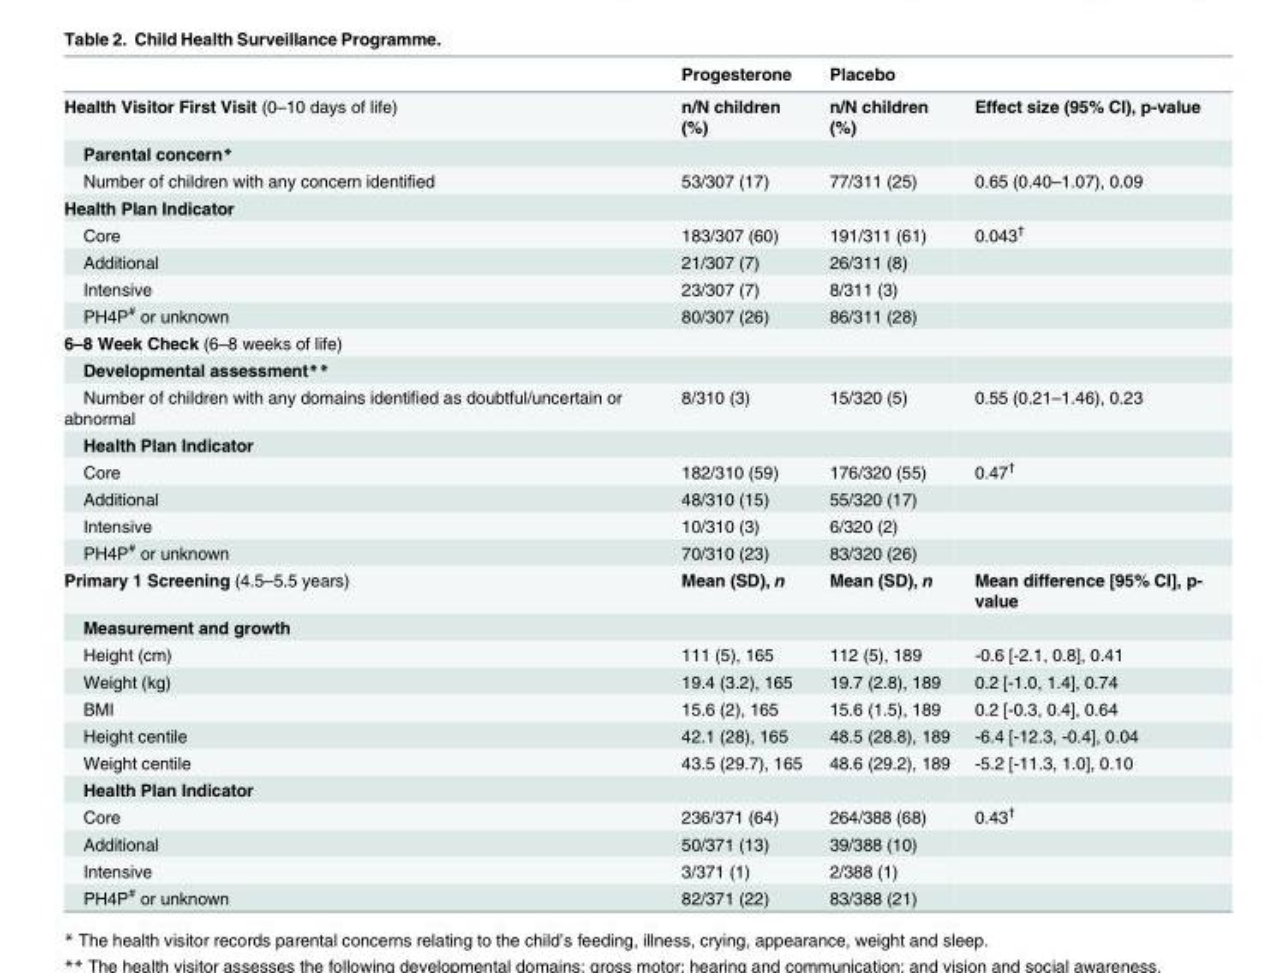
<table><thead><tr><td></td><td>Progesterone</td><td>Placebo</td><td></td></tr></thead><tbody><tr><td>Health Visitor First Visit (0–10 days of life)</td><td>n/N children (%)</td><td>n/N children (%)</td><td>Effect size (95% CI), p-value</td></tr><tr><td colspan="4">Parental concern*</td></tr><tr><td>Number of children with any concern identified</td><td>53/307 (17)</td><td>77/311 (25)</td><td>0.65 (0.40–1.07), 0.09</td></tr><tr><td colspan="4">Health Plan Indicator</td></tr><tr><td>Core</td><td>183/307 (60)</td><td>191/311 (61)</td><td>0.043<sup>†</sup></td></tr><tr><td>Additional</td><td>21/307 (7)</td><td>26/311 (8)</td><td></td></tr><tr><td>Intensive</td><td>23/307 (7)</td><td>8/311 (3)</td><td></td></tr><tr><td>PH4P<sup>#</sup> or unknown</td><td>80/307 (26)</td><td>86/311 (28)</td><td></td></tr><tr><td colspan="4">6–8 Week Check (6–8 weeks of life)</td></tr><tr><td colspan="4">Developmental assessment**</td></tr><tr><td>Number of children with any domains identified as doubtful/uncertain or abnormal</td><td>8/310 (3)</td><td>15/320 (5)</td><td>0.55 (0.21–1.46), 0.23</td></tr><tr><td colspan="4">Health Plan Indicator</td></tr><tr><td>Core</td><td>182/310 (59)</td><td>176/320 (55)</td><td>0.47<sup>†</sup></td></tr><tr><td>Additional</td><td>48/310 (15)</td><td>55/320 (17)</td><td></td></tr><tr><td>Intensive</td><td>10/310 (3)</td><td>6/320 (2)</td><td></td></tr><tr><td>PH4P<sup>#</sup> or unknown</td><td>70/310 (23)</td><td>83/320 (26)</td><td></td></tr><tr><td>Primary 1 Screening (4.5–5.5 years)</td><td>Mean (SD), n</td><td>Mean (SD), n</td><td>Mean difference [95% CI], p- value</td></tr><tr><td colspan="4">Measurement and growth</td></tr><tr><td>Height (cm)</td><td>111 (5), 165</td><td>112 (5), 189</td><td>-0.6 [-2.1, 0.8], 0.41</td></tr><tr><td>Weight (kg)</td><td>19.4 (3.2), 165</td><td>19.7 (2.8), 189</td><td>0.2 [-1.0, 1.4], 0.74</td></tr><tr><td>BMI</td><td>15.6 (2), 165</td><td>15.6 (1.5), 189</td><td>0.2 [-0.3, 0.4], 0.64</td></tr><tr><td>Height centile</td><td>42.1 (28), 165</td><td>48.5 (28.8), 189</td><td>-6.4 [-12.3, -0.4], 0.04</td></tr><tr><td>Weight centile</td><td>43.5 (29.7), 165</td><td>48.6 (29.2), 189</td><td>-5.2 [-11.3, 1.0], 0.10</td></tr><tr><td colspan="4">Health Plan Indicator</td></tr><tr><td>Core</td><td>236/371 (64)</td><td>264/388 (68)</td><td>0.43<sup>†</sup></td></tr><tr><td>Additional</td><td>50/371 (13)</td><td>39/388 (10)</td><td></td></tr><tr><td>Intensive</td><td>3/371 (1)</td><td>2/388 (1)</td><td></td></tr><tr><td>PH4P<sup>#</sup> or unknown</td><td>82/371 (22)</td><td>83/388 (21)</td><td></td></tr></tbody></table>